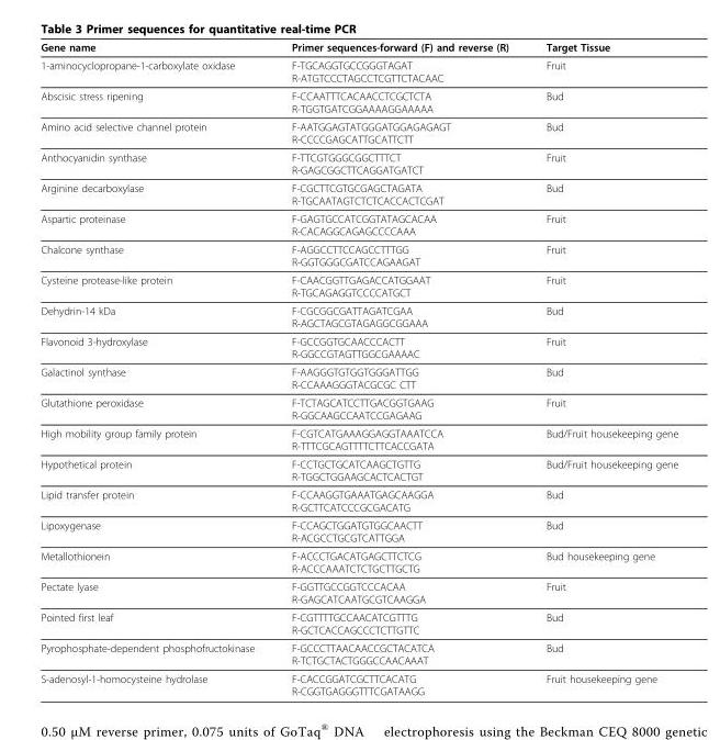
<table><thead><tr><td>Gene name</td><td>Primer sequences-forward (F) and reverse (R)</td><td>Target Tissue</td></tr></thead><tbody><tr><td>1-aminocyclopropane-1-carboxylate oxidase</td><td>F-TGCAGGTGCCGGGTAGAT R-ATGTCCCTAGCCTCGTTCTACAAC</td><td>Fruit</td></tr><tr><td>Abscisic stress ripening</td><td>F-CCAATTTCACAACCTCGCTCTA R-TGGTGATCGGAAAAGGAAAAA</td><td>Bud</td></tr><tr><td>Amino acid selective channel protein</td><td>F-AATGGAGTATGGGATGGAGAGAGT R-CCCCGAGCATTGCATTCTT</td><td>Bud</td></tr><tr><td>Anthocyanidin synthase</td><td>F-TTCGTGGGCGGCTTTCT R-GAGCGGCTTCAGGATGATCT</td><td>Fruit</td></tr><tr><td>Arginine decarboxylase</td><td>F-CGCTTCGTGCGAGCTAGATA R-TGCAATAGTCTCTCACCACTCGAT</td><td>Bud</td></tr><tr><td>Aspartic proteinase</td><td>F-GAGTGCCATCGGTATAGCACAA R-CACAGGCAGAGCCCCAAA</td><td>Fruit</td></tr><tr><td>Chalcone synthase</td><td>F-AGGCCTTCCAGCCTTTGG R-GGTGGGCGATCCAGAAGAT</td><td>Fruit</td></tr><tr><td>Cysteine protease-like protein</td><td>F-CAACGGTTGAGACCATGGAAT R-TGCAGAGGTCCCCATGCT</td><td>Fruit</td></tr><tr><td>Dehydrin-14 kDa</td><td>F-CGCGGCGATTAGATCGAA R-AGCTAGCGTAGAGGCGGAAA</td><td>Bud</td></tr><tr><td>Flavonoid 3-hydroxylase</td><td>F-GCCGGTGCAACCCACTT R-GGCCGTAGTTGGCGAAAAC</td><td>Fruit</td></tr><tr><td>Galactinol synthase</td><td>F-AAGGGTGTGGTGGGATTGG R-CCAAAGGGTACGCGC CTT</td><td>Bud</td></tr><tr><td>Glutathione peroxidase</td><td>F-TCTAGCATCCTTGACGGTGAAG R-GGCAAGCCAATCCGAGAAG</td><td>Fruit</td></tr><tr><td>High mobility group family protein</td><td>F-CGTCATGAAAGGAGGTAAATCCA R-TTTCGCAGTTTTCTTCACCGATA</td><td>Bud/Fruit housekeeping gene</td></tr><tr><td>Hypothetical protein</td><td>F-CCTGCTGCATCAAGCTGTTG R-TGGCTGGAAGCACTCACTGT</td><td>Bud/Fruit housekeeping gene</td></tr><tr><td>Lipid transfer protein</td><td>F-CCAAGGTGAAATGAGCAAGGA R-GCTTCATCCCGCGACATG</td><td>Bud</td></tr><tr><td>Lipoxygenase</td><td>F-CCAGCTGGATGTGGCAACTT R-ACGCCTGCGTCATTGGA</td><td>Bud</td></tr><tr><td>Metallothionein</td><td>F-ACCCTGACATGAGCTTCTCG R-ACCCAAATCTCTGCTTGCTG</td><td>Bud housekeeping gene</td></tr><tr><td>Pectate lyase</td><td>F-GGTTGCCGGTCCCACAA R-GAGCATCAATGCGTCAAGGA</td><td>Fruit</td></tr><tr><td>Pointed first leaf</td><td>F-CGTTTTGCCAACATCGTTTG R-GCTCACCAGCCCTCTTGTTC</td><td>Bud</td></tr><tr><td>Pyrophosphate-dependent phosphofructokinase</td><td>F-GCCCTTAACAACCGCTACATCA R-TCTGCTACTGGGCCAACAAAT</td><td>Bud</td></tr><tr><td>S-adenosyl-1-homocysteine hydrolase</td><td>F-CACCGGATCGCTTCACATG R-CGGTGAGGGTTTCGATAAGG</td><td>Fruit housekeeping gene</td></tr></tbody></table>